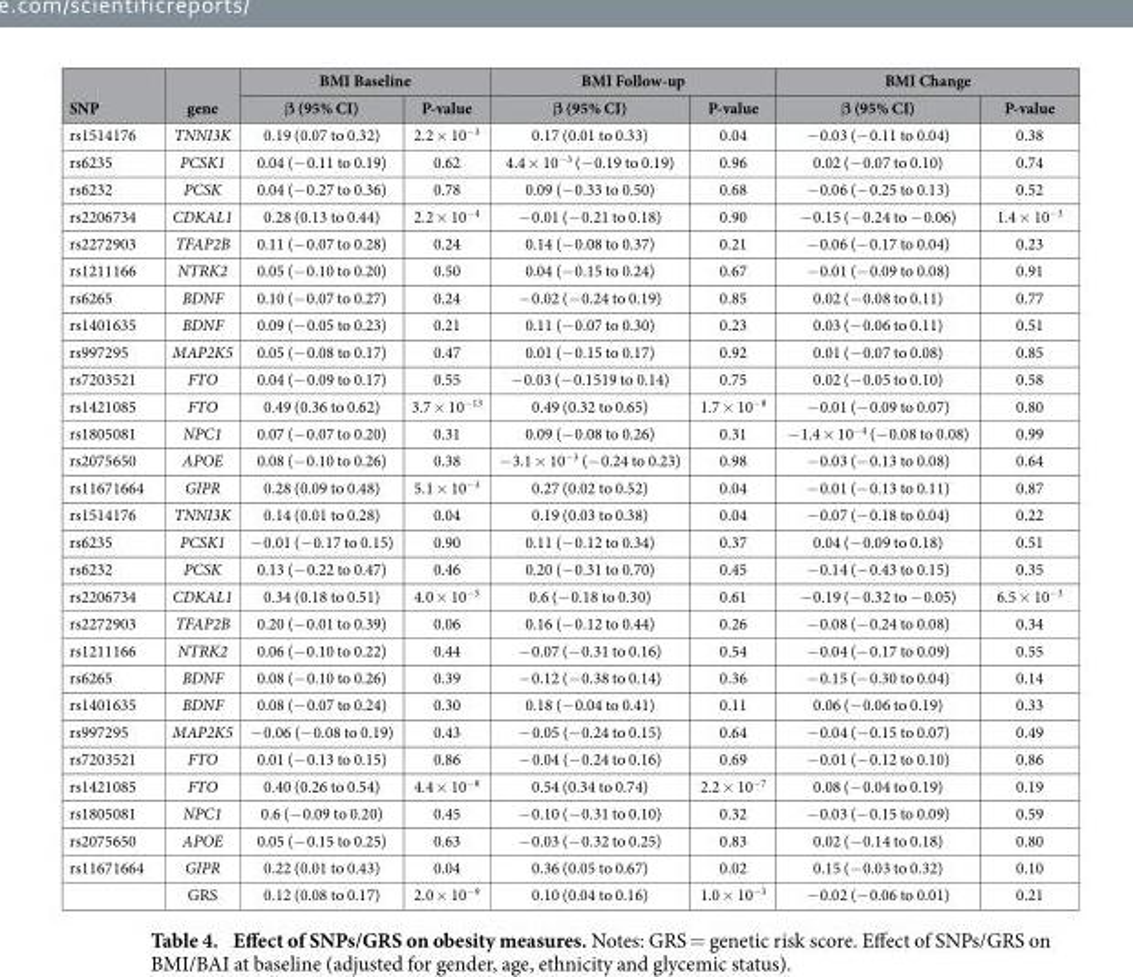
<table><thead><tr><td rowspan="2">SNP</td><td rowspan="2">gene</td><td colspan="2">BMI Baseline</td><td colspan="2">BMI Follow-up</td><td colspan="2">BMI Change</td></tr><tr><td>β (95% CI)</td><td>P-value</td><td>β (95% CI)</td><td>P-value</td><td>β (95% CI)</td><td>P-value</td></tr></thead><tbody><tr><td>rs1514176</td><td>TNNI3K</td><td>0.19 (0.07 to 0.32)</td><td>2.2 × 10<sup>−3</sup></td><td>0.17 (0.01 to 0.33)</td><td>0.04</td><td>− 0.03 (− 0.11 to 0.04)</td><td>0.38</td></tr><tr><td>rs6235</td><td>PCSK1</td><td>0.04 (− 0.11 to 0.19)</td><td>0.62</td><td>4.4 × 10<sup>−3</sup> (− 0.19 to 0.19)</td><td>0.96</td><td>0.02 (− 0.07 to 0.10)</td><td>0.74</td></tr><tr><td>rs6232</td><td>PCSK</td><td>0.04 (− 0.27 to 0.36)</td><td>0.78</td><td>0.09 (− 0.33 to 0.50)</td><td>0.68</td><td>− 0.06 (− 0.25 to 0.13)</td><td>0.52</td></tr><tr><td>rs2206734</td><td>CDKAL1</td><td>0.28 (0.13 to 0.44)</td><td>2.2 × 10<sup>−4</sup></td><td>− 0.01 (− 0.21 to 0.18)</td><td>0.90</td><td>− 0.15 (− 0.24 to − 0.06)</td><td>1.4 × 10<sup>−3</sup></td></tr><tr><td>rs2272903</td><td>TFAP2B</td><td>0.11 (− 0.07 to 0.28)</td><td>0.24</td><td>0.14 (− 0.08 to 0.37)</td><td>0.21</td><td>− 0.06 (− 0.17 to 0.04)</td><td>0.23</td></tr><tr><td>rs1211166</td><td>NTRK2</td><td>0.05 (− 0.10 to 0.20)</td><td>0.50</td><td>0.04 (− 0.15 to 0.24)</td><td>0.67</td><td>− 0.01 (− 0.09 to 0.08)</td><td>0.91</td></tr><tr><td>rs6265</td><td>BDNF</td><td>0.10 (− 0.07 to 0.27)</td><td>0.24</td><td>− 0.02 (− 0.24 to 0.19)</td><td>0.85</td><td>0.02 (− 0.08 to 0.11)</td><td>0.77</td></tr><tr><td>rs1401635</td><td>BDNF</td><td>0.09 (− 0.05 to 0.23)</td><td>0.21</td><td>0.11 (− 0.07 to 0.30)</td><td>0.23</td><td>0.03 (− 0.06 to 0.11)</td><td>0.51</td></tr><tr><td>rs997295</td><td>MAP2K5</td><td>0.05 (− 0.08 to 0.17)</td><td>0.47</td><td>0.01 (− 0.15 to 0.17)</td><td>0.92</td><td>0.01 (− 0.07 to 0.08)</td><td>0.85</td></tr><tr><td>rs7203521</td><td>FTO</td><td>0.04 (− 0.09 to 0.17)</td><td>0.55</td><td>− 0.03 (− 0.1519 to 0.14)</td><td>0.75</td><td>0.02 (− 0.05 to 0.10)</td><td>0.58</td></tr><tr><td>rs1421085</td><td>FTO</td><td>0.49 (0.36 to 0.62)</td><td>3.7 × 10<sup>−13</sup></td><td>0.49 (0.32 to 0.65)</td><td>1.7 × 10<sup>−8</sup></td><td>− 0.01 (− 0.09 to 0.07)</td><td>0.80</td></tr><tr><td>rs1805081</td><td>NPC1</td><td>0.07 (− 0.07 to 0.20)</td><td>0.31</td><td>0.09 (− 0.08 to 0.26)</td><td>0.31</td><td>− 1.4 × 10<sup>−4</sup> (− 0.08 to 0.08)</td><td>0.99</td></tr><tr><td>rs2075650</td><td>APOE</td><td>0.08 (− 0.10 to 0.26)</td><td>0.38</td><td>− 3.1 × 10<sup>−3</sup> (− 0.24 to 0.23)</td><td>0.98</td><td>− 0.03 (− 0.13 to 0.08)</td><td>0.64</td></tr><tr><td>rs11671664</td><td>GIPR</td><td>0.28 (0.09 to 0.48)</td><td>5.1 × 10<sup>−3</sup></td><td>0.27 (0.02 to 0.52)</td><td>0.04</td><td>− 0.01 (− 0.13 to 0.11)</td><td>0.87</td></tr><tr><td>rs1514176</td><td>TNNI3K</td><td>0.14 (0.01 to 0.28)</td><td>0.04</td><td>0.19 (0.03 to 0.38)</td><td>0.04</td><td>− 0.07 (− 0.18 to 0.04)</td><td>0.22</td></tr><tr><td>rs6235</td><td>PCSK1</td><td>− 0.01 (− 0.17 to 0.15)</td><td>0.90</td><td>0.11 (− 0.12 to 0.34)</td><td>0.37</td><td>0.04 (− 0.09 to 0.18)</td><td>0.51</td></tr><tr><td>rs6232</td><td>PCSK</td><td>0.13 (− 0.22 to 0.47)</td><td>0.46</td><td>0.20 (− 0.31 to 0.70)</td><td>0.45</td><td>− 0.14 (− 0.43 to 0.15)</td><td>0.35</td></tr><tr><td>rs2206734</td><td>CDKAL1</td><td>0.34 (0.18 to 0.51)</td><td>4.0 × 10<sup>−5</sup></td><td>0.6 (− 0.18 to 0.30)</td><td>0.61</td><td>− 0.19 (− 0.32 to − 0.05)</td><td>6.5 × 10<sup>−3</sup></td></tr><tr><td>rs2272903</td><td>TFAP2B</td><td>0.20 (− 0.01 to 0.39)</td><td>0.06</td><td>0.16 (− 0.12 to 0.44)</td><td>0.26</td><td>− 0.08 (− 0.24 to 0.08)</td><td>0.34</td></tr><tr><td>rs1211166</td><td>NTRK2</td><td>0.06 (− 0.10 to 0.22)</td><td>0.44</td><td>− 0.07 (− 0.31 to 0.16)</td><td>0.54</td><td>− 0.04 (− 0.17 to 0.09)</td><td>0.55</td></tr><tr><td>rs6265</td><td>BDNF</td><td>0.08 (− 0.10 to 0.26)</td><td>0.39</td><td>− 0.12 (− 0.38 to 0.14)</td><td>0.36</td><td>− 0.15 (− 0.30 to 0.04)</td><td>0.14</td></tr><tr><td>rs1401635</td><td>BDNF</td><td>0.08 (− 0.07 to 0.24)</td><td>0.30</td><td>0.18 (− 0.04 to 0.41)</td><td>0.11</td><td>0.06 (− 0.06 to 0.19)</td><td>0.33</td></tr><tr><td>rs997295</td><td>MAP2K5</td><td>− 0.06 (− 0.08 to 0.19)</td><td>0.43</td><td>− 0.05 (− 0.24 to 0.15)</td><td>0.64</td><td>− 0.04 (− 0.15 to 0.07)</td><td>0.49</td></tr><tr><td>rs7203521</td><td>FTO</td><td>0.01 (− 0.13 to 0.15)</td><td>0.86</td><td>− 0.04 (− 0.24 to 0.16)</td><td>0.69</td><td>− 0.01 (− 0.12 to 0.10)</td><td>0.86</td></tr><tr><td>rs1421085</td><td>FTO</td><td>0.40 (0.26 to 0.54)</td><td>4.4 × 10<sup>−8</sup></td><td>0.54 (0.34 to 0.74)</td><td>2.2 × 10<sup>−7</sup></td><td>0.08 (− 0.04 to 0.19)</td><td>0.19</td></tr><tr><td>rs1805081</td><td>NPC1</td><td>0.6 (− 0.09 to 0.20)</td><td>0.45</td><td>− 0.10 (− 0.31 to 0.10)</td><td>0.32</td><td>− 0.03 (− 0.15 to 0.09)</td><td>0.59</td></tr><tr><td>rs2075650</td><td>APOE</td><td>0.05 (− 0.15 to 0.25)</td><td>0.63</td><td>− 0.03 (− 0.32 to 0.25)</td><td>0.83</td><td>0.02 (− 0.14 to 0.18)</td><td>0.80</td></tr><tr><td rowspan="2">rs11671664</td><td>GIPR</td><td>0.22 (0.01 to 0.43)</td><td>0.04</td><td>0.36 (0.05 to 0.67)</td><td>0.02</td><td>0.15 (− 0.03 to 0.32)</td><td>0.10</td></tr><tr><td>GRS</td><td>0.12 (0.08 to 0.17)</td><td>2.0 × 10<sup>−9</sup></td><td>0.10 (0.04 to 0.16)</td><td>1.0 × 10<sup>−3</sup></td><td>− 0.02 (− 0.06 to 0.01)</td><td>0.21</td></tr></tbody></table>